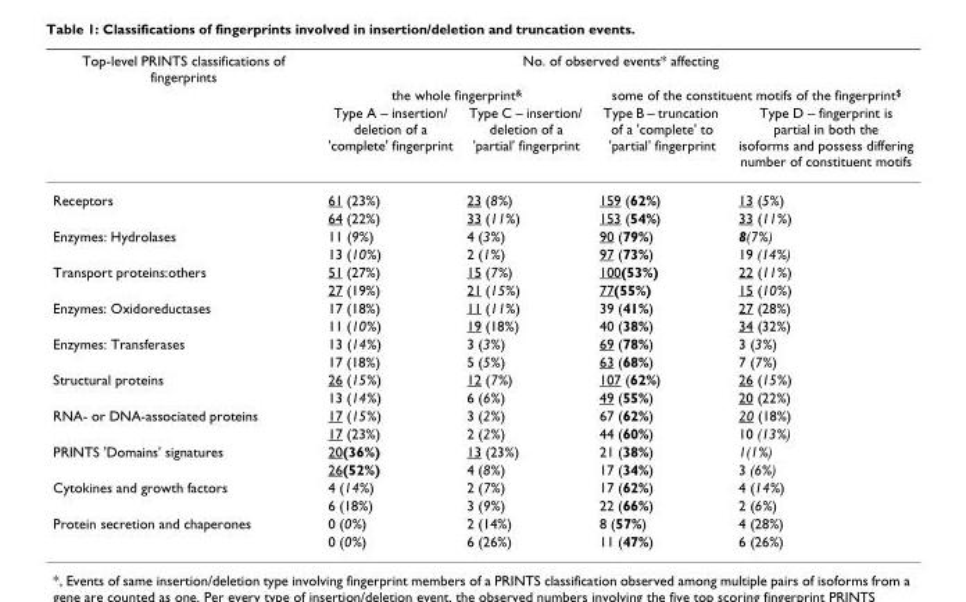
<table><thead><tr><td rowspan="3">Top-level PRINTS classifications of fingerprints</td><td colspan="4">No. of observed events* affecting</td></tr><tr><td colspan="2">the whole fingerprint<sup>&amp;</sup></td><td colspan="2">some of the constituent motifs of the fingerprint<sup>$</sup></td></tr><tr><td>Type A – insertion/ deletion of a &#x27;complete&#x27; fingerprint</td><td>Type C – insertion/ deletion of a &#x27;partial&#x27; fingerprint</td><td>Type B – truncation of a &#x27;complete&#x27; to &#x27;partial&#x27; fingerprint</td><td>Type D – fingerprint is partial in both the isoforms and possess differing number of constituent motifs</td></tr></thead><tbody><tr><td rowspan="2">Receptors</td><td>61 (23%)</td><td>23 (8%)</td><td>159 (62%)</td><td>13 (5%)</td></tr><tr><td>64 (22%)</td><td>33 (11%)</td><td>153 (54%)</td><td>33 (11%)</td></tr><tr><td rowspan="2">Enzymes: Hydrolases</td><td>11 (9%)</td><td>4 (3%)</td><td>90 (79%)</td><td>8(7%)</td></tr><tr><td>13 (10%)</td><td>2 (1%)</td><td>97 (73%)</td><td>19 (14%)</td></tr><tr><td rowspan="2">Transport proteins:others</td><td>51 (27%)</td><td>15 (7%)</td><td>100(53%)</td><td>22 (11%)</td></tr><tr><td>27 (19%)</td><td>21 (15%)</td><td>77(55%)</td><td>15 (10%)</td></tr><tr><td rowspan="2">Enzymes: Oxidoreductases</td><td>17 (18%)</td><td>11 (11%)</td><td>39 (41%)</td><td>27 (28%)</td></tr><tr><td>11 (10%)</td><td>19 (18%)</td><td>40 (38%)</td><td>34 (32%)</td></tr><tr><td rowspan="2">Enzymes: Transferases</td><td>13 (14%)</td><td>3 (3%)</td><td>69 (78%)</td><td>3 (3%)</td></tr><tr><td>17 (18%)</td><td>5 (5%)</td><td>63 (68%)</td><td>7 (7%)</td></tr><tr><td rowspan="2">Structural proteins</td><td>26 (15%)</td><td>12 (7%)</td><td>107 (62%)</td><td>26 (15%)</td></tr><tr><td>13 (14%)</td><td>6 (6%)</td><td>49 (55%)</td><td>20 (22%)</td></tr><tr><td rowspan="2">RNA- or DNA-associated proteins</td><td>17 (15%)</td><td>3 (2%)</td><td>67 (62%)</td><td>20 (18%)</td></tr><tr><td>17 (23%)</td><td>2 (2%)</td><td>44 (60%)</td><td>10 (13%)</td></tr><tr><td rowspan="2">PRINTS &#x27;Domains&#x27; signatures</td><td>20(36%)</td><td>13 (23%)</td><td>21 (38%)</td><td>1(1%)</td></tr><tr><td>26(52%)</td><td>4 (8%)</td><td>17 (34%)</td><td>3 (6%)</td></tr><tr><td rowspan="2">Cytokines and growth factors</td><td>4 (14%)</td><td>2 (7%)</td><td>17 (62%)</td><td>4 (14%)</td></tr><tr><td>6 (18%)</td><td>3 (9%)</td><td>22 (66%)</td><td>2 (6%)</td></tr><tr><td rowspan="2">Protein secretion and chaperones</td><td>0 (0%)</td><td>2 (14%)</td><td>8 (57%)</td><td>4 (28%)</td></tr><tr><td>0 (0%)</td><td>6 (26%)</td><td>11 (47%)</td><td>6 (26%)</td></tr></tbody></table>